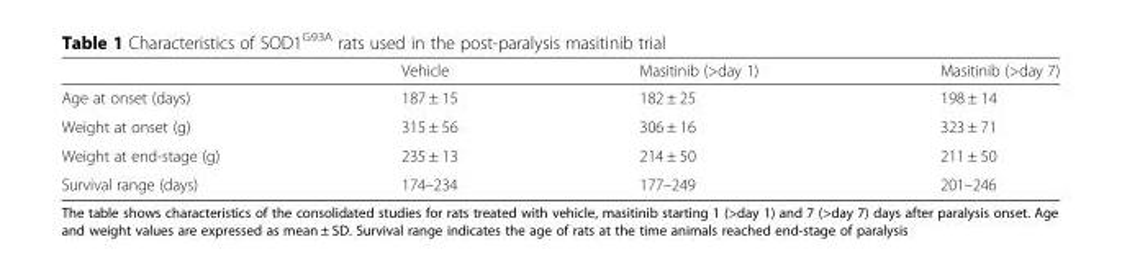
<table><thead><tr><td></td><td>Vehicle</td><td>Masitinib (&gt;day 1)</td><td>Masitinib (&gt;day 7)</td></tr></thead><tbody><tr><td>Age at onset (days)</td><td>187 ± 15</td><td>182 ± 25</td><td>198 ± 14</td></tr><tr><td>Weight at onset (g)</td><td>315 ± 56</td><td>306 ± 16</td><td>323 ± 71</td></tr><tr><td>Weight at end-stage (g)</td><td>235 ± 13</td><td>214 ± 50</td><td>211 ± 50</td></tr><tr><td>Survival range (days)</td><td>174–234</td><td>177–249</td><td>201–246</td></tr></tbody></table>